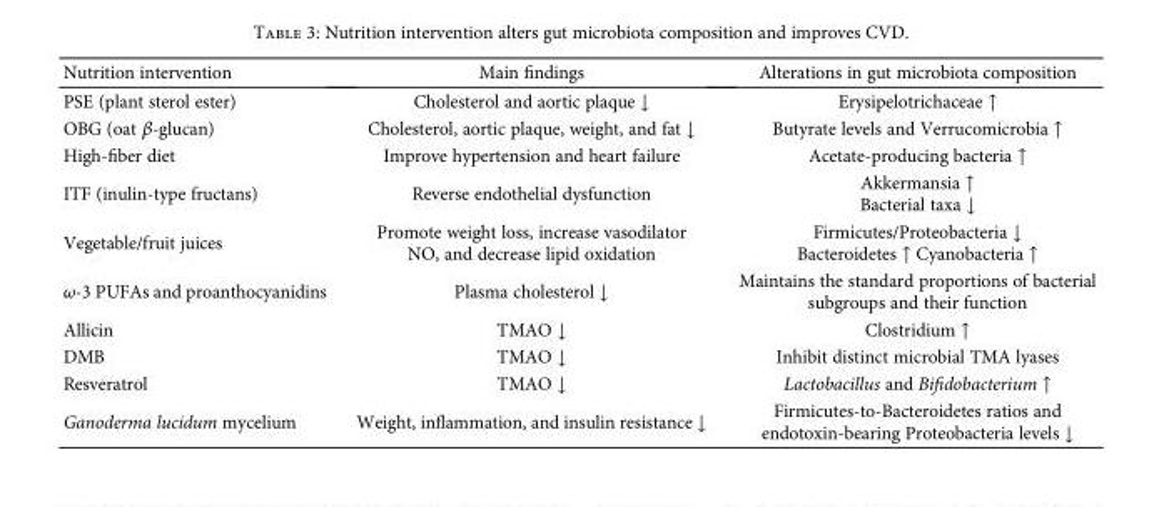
<table><thead><tr><td>Nutrition intervention</td><td>Main findings</td><td>Alterations in gut microbiota composition</td></tr></thead><tbody><tr><td>PSE (plant sterol ester)</td><td>Cholesterol and aortic plaque ↓</td><td>Erysipelotrichaceae ↑</td></tr><tr><td>OBG (oat β-glucan)</td><td>Cholesterol, aortic plaque, weight, and fat ↓</td><td>Butyrate levels and Verrucomicrobia ↑</td></tr><tr><td>High-fiber diet</td><td>Improve hypertension and heart failure</td><td>Acetate-producing bacteria ↑</td></tr><tr><td>ITF (inulin-type fructans)</td><td>Reverse endothelial dysfunction</td><td>Akkermansia ↑ Bacterial taxa ↓</td></tr><tr><td>Vegetable/fruit juices</td><td>Promote weight loss, increase vasodilator NO, and decrease lipid oxidation</td><td>Firmicutes/Proteobacteria ↓ Bacteroidetes ↑ Cyanobacteria ↑</td></tr><tr><td>ω-3 PUFAs and proanthocyanidins</td><td>Plasma cholesterol ↓</td><td>Maintains the standard proportions of bacterial subgroups and their function</td></tr><tr><td>Allicin</td><td>TMAO ↓</td><td>Clostridium ↑</td></tr><tr><td>DMB</td><td>TMAO ↓</td><td>Inhibit distinct microbial TMA lyases</td></tr><tr><td>Resveratrol</td><td>TMAO ↓</td><td>Lactobacillus and Bifidobacterium ↑</td></tr><tr><td>Ganoderma lucidum mycelium</td><td>Weight, inflammation, and insulin resistance ↓</td><td>Firmicutes-to-Bacteroidetes ratios and endotoxin-bearing Proteobacteria levels ↓</td></tr></tbody></table>